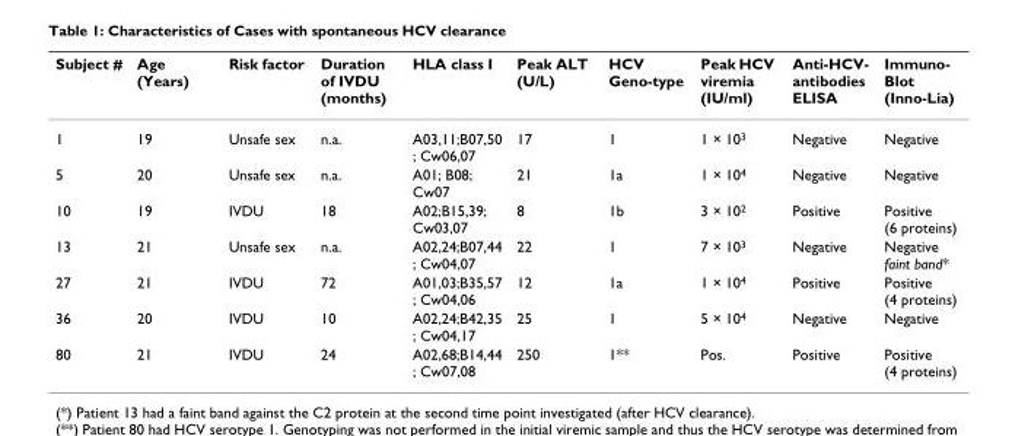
<table><thead><tr><td>Subject #</td><td>Age (Years)</td><td>Risk factor</td><td>Duration of IVDU (months)</td><td>HLA class I</td><td>Peak ALT (U/L)</td><td>HCV Geno-type</td><td>Peak HCV viremia (IU/ml)</td><td>Anti-HCV- antibodies ELISA</td><td>Immuno- Blot (Inno-Lia)</td></tr></thead><tbody><tr><td>1</td><td>19</td><td>Unsafe sex</td><td>n.a.</td><td>A03,11;B07,50 ; Cw06,07</td><td>17</td><td>1</td><td>1 × 10<sup>3</sup></td><td>Negative</td><td>Negative</td></tr><tr><td>5</td><td>20</td><td>Unsafe sex</td><td>n.a.</td><td>A01; B08; Cw07</td><td>21</td><td>1a</td><td>1 × 10<sup>4</sup></td><td>Negative</td><td>Negative</td></tr><tr><td>10</td><td>19</td><td>IVDU</td><td>18</td><td>A02;B15,39; Cw03,07</td><td>8</td><td>1b</td><td>3 × 10<sup>2</sup></td><td>Positive</td><td>Positive (6 proteins)</td></tr><tr><td>13</td><td>21</td><td>Unsafe sex</td><td>n.a.</td><td>A02,24;B07,44 ; Cw04,07</td><td>22</td><td>1</td><td>7 × 10<sup>3</sup></td><td>Negative</td><td>Negative faint band*</td></tr><tr><td>27</td><td>21</td><td>IVDU</td><td>72</td><td>A01,03;B35,57 ; Cw04,06</td><td>12</td><td>1a</td><td>1 × 10<sup>4</sup></td><td>Positive</td><td>Positive (4 proteins)</td></tr><tr><td>36</td><td>20</td><td>IVDU</td><td>10</td><td>A02,24;B42,35 ; Cw04,17</td><td>25</td><td>1</td><td>5 × 10<sup>4</sup></td><td>Negative</td><td>Negative</td></tr><tr><td>80</td><td>21</td><td>IVDU</td><td>24</td><td>A02,68;B14,44 ; Cw07,08</td><td>250</td><td>1**</td><td>Pos.</td><td>Positive</td><td>Positive (4 proteins)</td></tr></tbody></table>